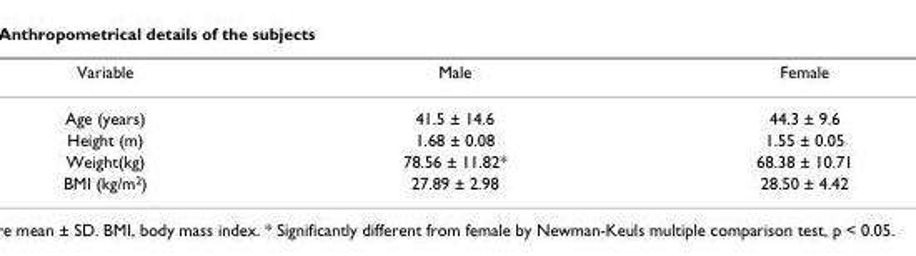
<table><thead><tr><td>Variable</td><td>Male</td><td>Female</td></tr></thead><tbody><tr><td>Age (years)</td><td>41.5 ± 14.6</td><td>44.3 ± 9.6</td></tr><tr><td>Height (m)</td><td>1.68 ± 0.08</td><td>1.55 ± 0.05</td></tr><tr><td>Weight(kg)</td><td>78.56 ± 11.82*</td><td>68.38 ± 10.71</td></tr><tr><td>BMI (kg/m<sup>2</sup>)</td><td>27.89 ± 2.98</td><td>28.50 ± 4.42</td></tr></tbody></table>